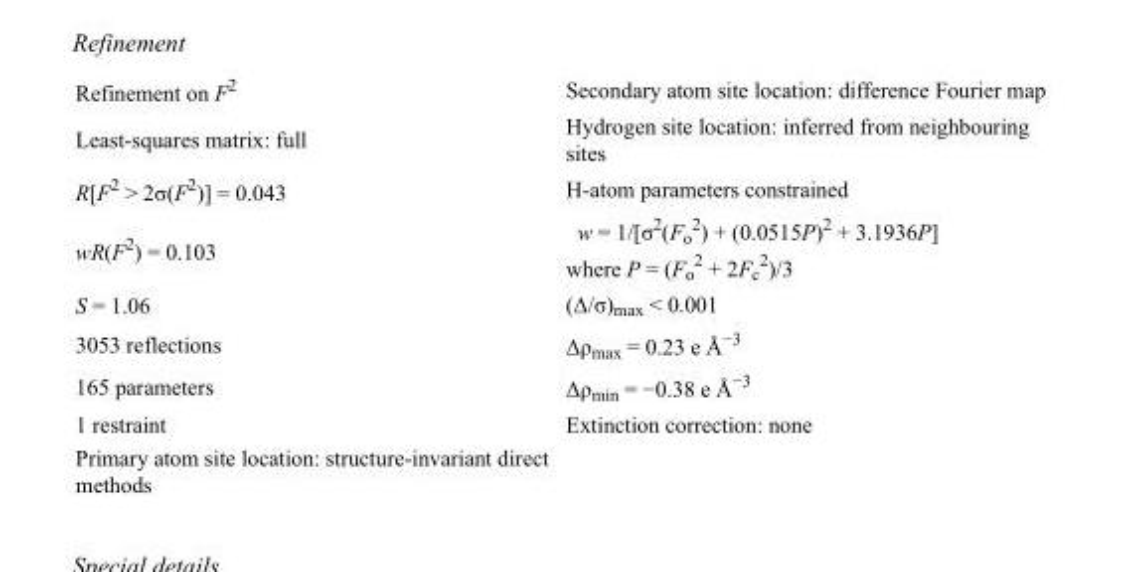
<table><tbody><tr><td>Refinement on F<sup>2</sup></td><td>Secondary atom site location: difference Fourier map</td></tr><tr><td>Least-squares matrix: full</td><td>Hydrogen site location: inferred from neighbouring sites</td></tr><tr><td>R[F<sup>2</sup> &gt; 2σ(F<sup>2</sup>)] = 0.043</td><td>H-atom parameters constrained</td></tr><tr><td>wR(F<sup>2</sup>) = 0.103</td><td>w = 1/[σ<sup>2</sup>(F<sub>o</sub> <sup>2</sup>) + (0.0515P)<sup>2</sup> + 3.1936P] where P = (F<sub>o</sub> <sup>2</sup> + 2F<sub>c</sub> <sup>2</sup>)/3</td></tr><tr><td>S = 1.06</td><td>(Δ/σ)<sub>max</sub> &lt; 0.001</td></tr><tr><td>3053 reflections</td><td>Δρ<sub>max</sub> = 0.23 e Å<sup>−3</sup></td></tr><tr><td>165 parameters</td><td>Δρ<sub>min</sub> = −0.38 e Å<sup>−3</sup></td></tr><tr><td>1 restraint</td><td>Extinction correction: none</td></tr><tr><td>Primary atom site location: structure-invariant direct methods</td><td></td></tr></tbody></table>